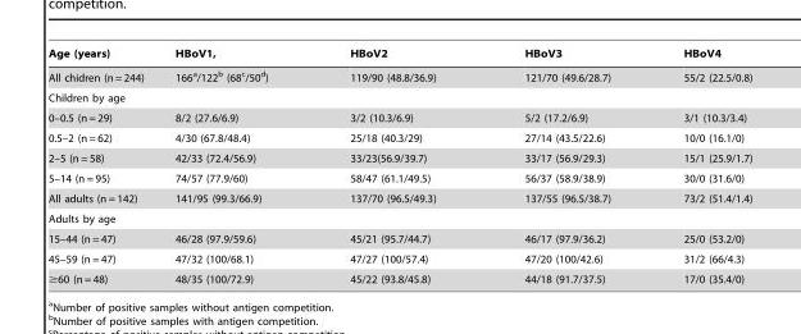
<table><thead><tr><td>Age (years)</td><td>HBoV1,</td><td>HBoV2</td><td>HBoV3</td><td>HBoV4</td></tr></thead><tbody><tr><td>All chidren (n = 244)</td><td>166<sup>a</sup>/122<sup>b</sup> (68<sup>c</sup>/50<sup>d</sup>)</td><td>119/90 (48.8/36.9)</td><td>121/70 (49.6/28.7)</td><td>55/2 (22.5/0.8)</td></tr><tr><td colspan="5">Children by age</td></tr><tr><td>0–0.5 (n = 29)</td><td>8/2 (27.6/6.9)</td><td>3/2 (10.3/6.9)</td><td>5/2 (17.2/6.9)</td><td>3/1 (10.3/3.4)</td></tr><tr><td>0.5–2 (n = 62)</td><td>4/30 (67.8/48.4)</td><td>25/18 (40.3/29)</td><td>27/14 (43.5/22.6)</td><td>10/0 (16.1/0)</td></tr><tr><td>2–5 (n = 58)</td><td>42/33 (72.4/56.9)</td><td>33/23(56.9/39.7)</td><td>33/17 (56.9/29.3)</td><td>15/1 (25.9/1.7)</td></tr><tr><td>5–14 (n = 95)</td><td>74/57 (77.9/60)</td><td>58/47 (61.1/49.5)</td><td>56/37 (58.9/38.9)</td><td>30/0 (31.6/0)</td></tr><tr><td>All adults (n = 142)</td><td>141/95 (99.3/66.9)</td><td>137/70 (96.5/49.3)</td><td>137/55 (96.5/38.7)</td><td>73/2 (51.4/1.4)</td></tr><tr><td colspan="5">Adults by age</td></tr><tr><td>15–44 (n = 47)</td><td>46/28 (97.9/59.6)</td><td>45/21 (95.7/44.7)</td><td>46/17 (97.9/36.2)</td><td>25/0 (53.2/0)</td></tr><tr><td>45–59 (n = 47)</td><td>47/32 (100/68.1)</td><td>47/27 (100/57.4)</td><td>47/20 (100/42.6)</td><td>31/2 (66/4.3)</td></tr><tr><td>≥60 (n = 48)</td><td>48/35 (100/72.9)</td><td>45/22 (93.8/45.8)</td><td>44/18 (91.7/37.5)</td><td>17/0 (35.4/0)</td></tr></tbody></table>